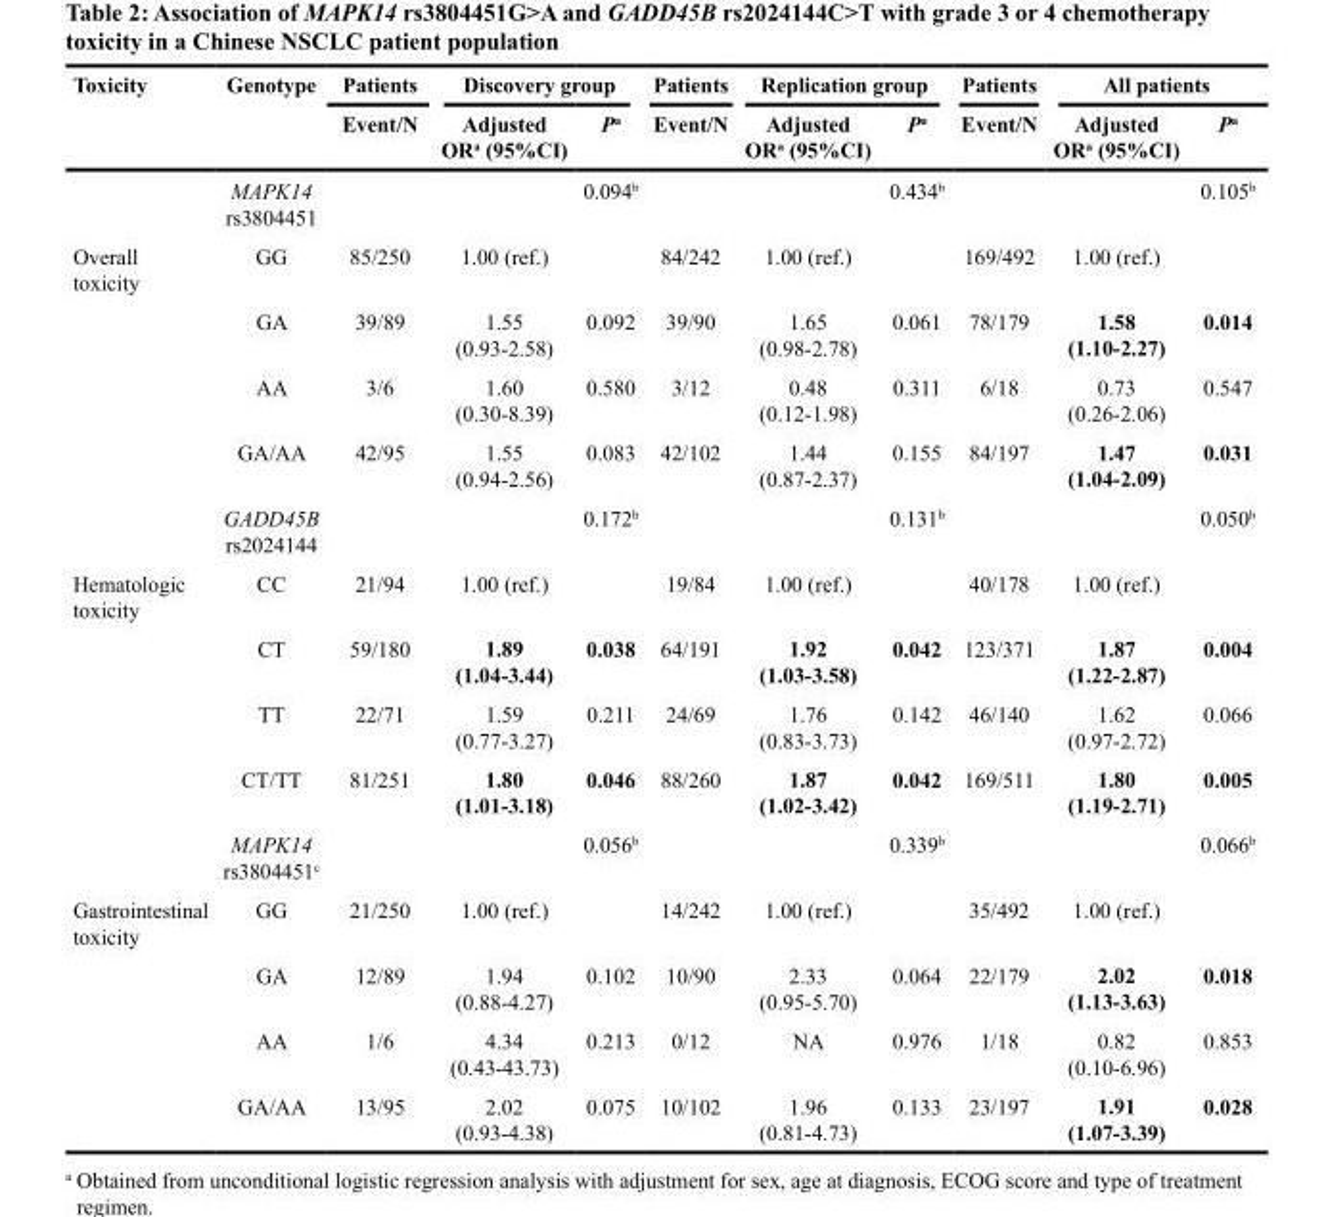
<table><thead><tr><td rowspan="2">Toxicity</td><td rowspan="2">Genotype</td><td rowspan="2">Patients Event/N</td><td colspan="2">Discovery group</td><td rowspan="2">Patients Event/N</td><td colspan="2">Replication group</td><td rowspan="2">Patients Event/N</td><td colspan="2">All patients</td></tr><tr><td>Adjusted OR<sup>a</sup> (95%CI)</td><td>P<sup>a</sup></td><td>Adjusted OR<sup>a</sup> (95%CI)</td><td>P<sup>a</sup></td><td>Adjusted OR<sup>a</sup> (95%CI)</td><td>P<sup>a</sup></td></tr></thead><tbody><tr><td></td><td>MAPK14 rs3804451</td><td></td><td></td><td>0.094<sup>b</sup></td><td></td><td></td><td>0.434<sup>b</sup></td><td></td><td></td><td>0.105<sup>b</sup></td></tr><tr><td rowspan="5">Overall toxicity</td><td>GG</td><td>85/250</td><td>1.00 (ref.)</td><td></td><td>84/242</td><td>1.00 (ref.)</td><td></td><td>169/492</td><td>1.00 (ref.)</td><td></td></tr><tr><td>GA</td><td>39/89</td><td>1.55 (0.93-2.58)</td><td>0.092</td><td>39/90</td><td>1.65 (0.98-2.78)</td><td>0.061</td><td>78/179</td><td>1.58 (1.10-2.27)</td><td>0.014</td></tr><tr><td>AA</td><td>3/6</td><td>1.60 (0.30-8.39)</td><td>0.580</td><td>3/12</td><td>0.48 (0.12-1.98)</td><td>0.311</td><td>6/18</td><td>0.73 (0.26-2.06)</td><td>0.547</td></tr><tr><td>GA/AA</td><td>42/95</td><td>1.55 (0.94-2.56)</td><td>0.083</td><td>42/102</td><td>1.44 (0.87-2.37)</td><td>0.155</td><td>84/197</td><td>1.47 (1.04-2.09)</td><td>0.031</td></tr><tr><td>GADD45B rs2024144</td><td></td><td></td><td>0.172<sup>b</sup></td><td></td><td></td><td>0.131<sup>b</sup></td><td></td><td></td><td>0.050<sup>b</sup></td></tr><tr><td rowspan="5">Hematologic toxicity</td><td>CC</td><td>21/94</td><td>1.00 (ref.)</td><td></td><td>19/84</td><td>1.00 (ref.)</td><td></td><td>40/178</td><td>1.00 (ref.)</td><td></td></tr><tr><td>CT</td><td>59/180</td><td>1.89 (1.04-3.44)</td><td>0.038</td><td>64/191</td><td>1.92 (1.03-3.58)</td><td>0.042</td><td>123/371</td><td>1.87 (1.22-2.87)</td><td>0.004</td></tr><tr><td>TT</td><td>22/71</td><td>1.59 (0.77-3.27)</td><td>0.211</td><td>24/69</td><td>1.76 (0.83-3.73)</td><td>0.142</td><td>46/140</td><td>1.62 (0.97-2.72)</td><td>0.066</td></tr><tr><td>CT/TT</td><td>81/251</td><td>1.80 (1.01-3.18)</td><td>0.046</td><td>88/260</td><td>1.87 (1.02-3.42)</td><td>0.042</td><td>169/511</td><td>1.80 (1.19-2.71)</td><td>0.005</td></tr><tr><td>MAPK14 rs3804451<sup>c</sup></td><td></td><td></td><td>0.056<sup>b</sup></td><td></td><td></td><td>0.339<sup>b</sup></td><td></td><td></td><td>0.066<sup>b</sup></td></tr><tr><td rowspan="4">Gastrointestinal toxicity</td><td>GG</td><td>21/250</td><td>1.00 (ref.)</td><td></td><td>14/242</td><td>1.00 (ref.)</td><td></td><td>35/492</td><td>1.00 (ref.)</td><td></td></tr><tr><td>GA</td><td>12/89</td><td>1.94 (0.88-4.27)</td><td>0.102</td><td>10/90</td><td>2.33 (0.95-5.70)</td><td>0.064</td><td>22/179</td><td>2.02 (1.13-3.63)</td><td>0.018</td></tr><tr><td>AA</td><td>1/6</td><td>4.34 (0.43-43.73)</td><td>0.213</td><td>0/12</td><td>NA</td><td>0.976</td><td>1/18</td><td>0.82 (0.10-6.96)</td><td>0.853</td></tr><tr><td>GA/AA</td><td>13/95</td><td>2.02 (0.93-4.38)</td><td>0.075</td><td>10/102</td><td>1.96 (0.81-4.73)</td><td>0.133</td><td>23/197</td><td>1.91 (1.07-3.39)</td><td>0.028</td></tr></tbody></table>